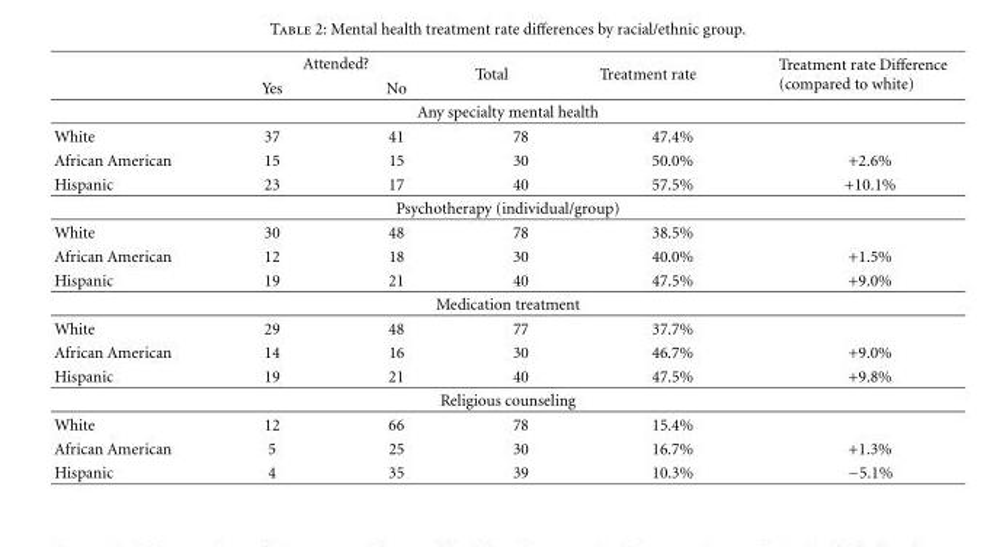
<table><thead><tr><td rowspan="2"></td><td colspan="2">Attended?</td><td rowspan="2">Total</td><td rowspan="2">Treatment rate</td><td rowspan="2">Treatment rate Difference (compared to white)</td></tr><tr><td>Yes</td><td>No</td></tr></thead><tbody><tr><td colspan="6">Any specialty mental health</td></tr><tr><td>White</td><td>37</td><td>41</td><td>78</td><td>47.4%</td><td></td></tr><tr><td>African American</td><td>15</td><td>15</td><td>30</td><td>50.0%</td><td>+2.6%</td></tr><tr><td>Hispanic</td><td>23</td><td>17</td><td>40</td><td>57.5%</td><td>+10.1%</td></tr><tr><td colspan="6">Psychotherapy (individual/group)</td></tr><tr><td>White</td><td>30</td><td>48</td><td>78</td><td>38.5%</td><td></td></tr><tr><td>African American</td><td>12</td><td>18</td><td>30</td><td>40.0%</td><td>+1.5%</td></tr><tr><td>Hispanic</td><td>19</td><td>21</td><td>40</td><td>47.5%</td><td>+9.0%</td></tr><tr><td colspan="6">Medication treatment</td></tr><tr><td>White</td><td>29</td><td>48</td><td>77</td><td>37.7%</td><td></td></tr><tr><td>African American</td><td>14</td><td>16</td><td>30</td><td>46.7%</td><td>+9.0%</td></tr><tr><td>Hispanic</td><td>19</td><td>21</td><td>40</td><td>47.5%</td><td>+9.8%</td></tr><tr><td colspan="6">Religious counseling</td></tr><tr><td>White</td><td>12</td><td>66</td><td>78</td><td>15.4%</td><td></td></tr><tr><td>African American</td><td>5</td><td>25</td><td>30</td><td>16.7%</td><td>+1.3%</td></tr><tr><td>Hispanic</td><td>4</td><td>35</td><td>39</td><td>10.3%</td><td>−5.1%</td></tr></tbody></table>